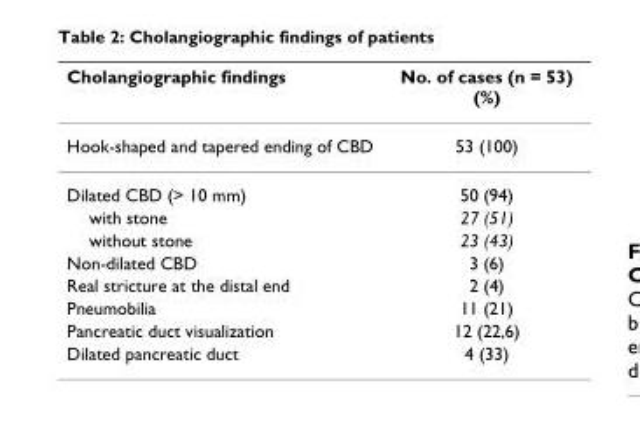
<table><thead><tr><td>Cholangiographic findings</td><td>No. of cases (n = 53) (%)</td></tr></thead><tbody><tr><td>Hook-shaped and tapered ending of CBD</td><td>53 (100)</td></tr><tr><td>Dilated CBD (&gt; 10 mm)</td><td>50 (94)</td></tr><tr><td>with stone</td><td>27 (51)</td></tr><tr><td>without stone</td><td>23 (43)</td></tr><tr><td>Non-dilated CBD</td><td>3 (6)</td></tr><tr><td>Real stricture at the distal end</td><td>2 (4)</td></tr><tr><td>Pneumobilia</td><td>11 (21)</td></tr><tr><td>Pancreatic duct visualization</td><td>12 (22,6)</td></tr><tr><td>Dilated pancreatic duct</td><td>4 (33)</td></tr></tbody></table>